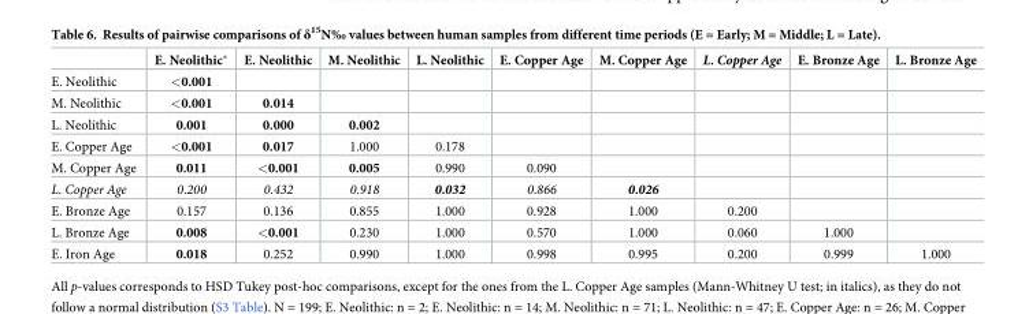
<table><thead><tr><td></td><td>E. Neolithic*</td><td>E. Neolithic</td><td>M. Neolithic</td><td>L. Neolithic</td><td>E. Copper Age</td><td>M. Copper Age</td><td>L. Copper Age</td><td>E. Bronze Age</td><td>L. Bronze Age</td></tr></thead><tbody><tr><td>E. Neolithic</td><td>&lt;0.001</td><td></td><td></td><td></td><td></td><td></td><td></td><td></td><td></td></tr><tr><td>M. Neolithic</td><td>&lt;0.001</td><td>0.014</td><td></td><td></td><td></td><td></td><td></td><td></td><td></td></tr><tr><td>L. Neolithic</td><td>0.001</td><td>0.000</td><td>0.002</td><td></td><td></td><td></td><td></td><td></td><td></td></tr><tr><td>E. Copper Age</td><td>&lt;0.001</td><td>0.017</td><td>1.000</td><td>0.178</td><td></td><td></td><td></td><td></td><td></td></tr><tr><td>M. Copper Age</td><td>0.011</td><td>&lt;0.001</td><td>0.005</td><td>0.990</td><td>0.090</td><td></td><td></td><td></td><td></td></tr><tr><td>L. Copper Age</td><td>0.200</td><td>0.432</td><td>0.918</td><td>0.032</td><td>0.866</td><td>0.026</td><td></td><td></td><td></td></tr><tr><td>E. Bronze Age</td><td>0.157</td><td>0.136</td><td>0.855</td><td>1.000</td><td>0.928</td><td>1.000</td><td>0.200</td><td></td><td></td></tr><tr><td>L. Bronze Age</td><td>0.008</td><td>&lt;0.001</td><td>0.230</td><td>1.000</td><td>0.570</td><td>1.000</td><td>0.060</td><td>1.000</td><td></td></tr><tr><td>E. Iron Age</td><td>0.018</td><td>0.252</td><td>0.990</td><td>1.000</td><td>0.998</td><td>0.995</td><td>0.200</td><td>0.999</td><td>1.000</td></tr></tbody></table>